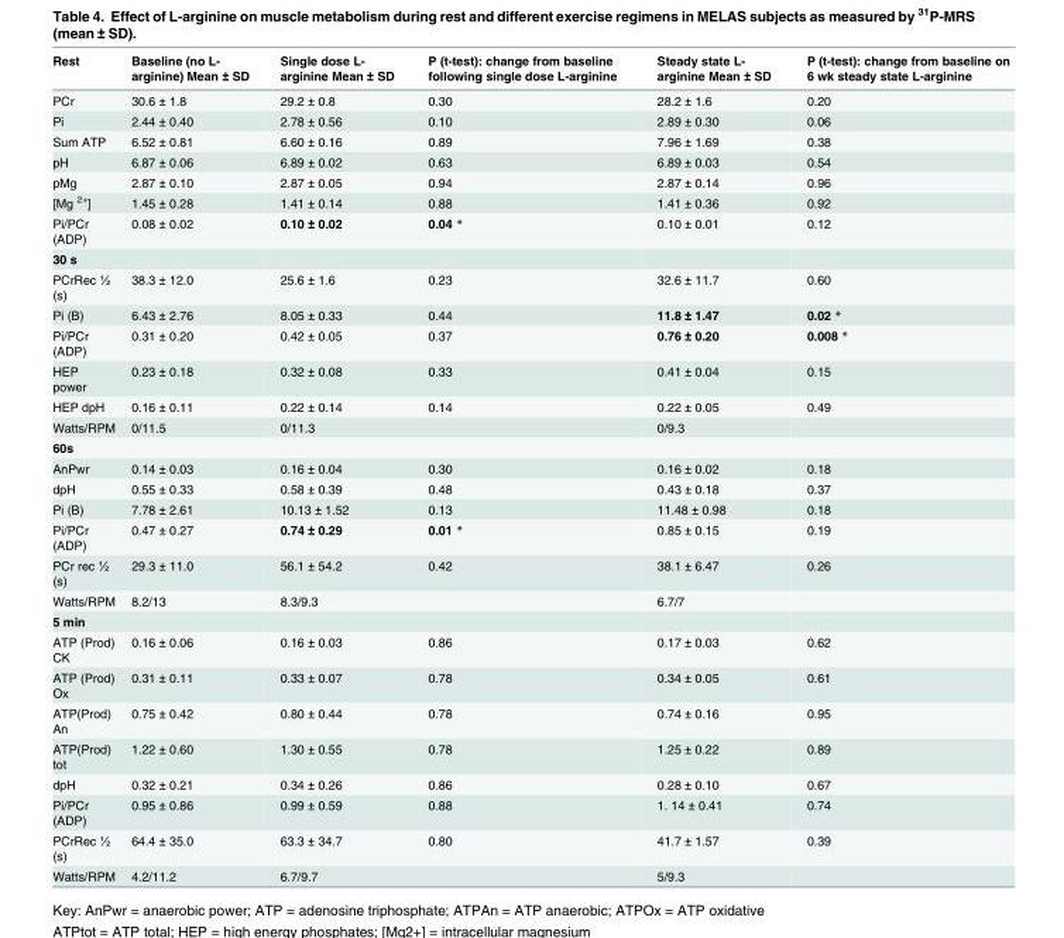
<table><thead><tr><td>Rest</td><td>Baseline (no L- arginine) Mean ± SD</td><td>Single dose L- arginine Mean ± SD</td><td>P (t-test): change from baseline following single dose L-arginine</td><td>Steady state L- arginine Mean ± SD</td><td>P (t-test): change from baseline on 6 wk steady state L-arginine</td></tr></thead><tbody><tr><td>PCr</td><td>30.6 ± 1.8</td><td>29.2 ± 0.8</td><td>0.30</td><td>28.2 ± 1.6</td><td>0.20</td></tr><tr><td>Pi</td><td>2.44 ± 0.40</td><td>2.78 ± 0.56</td><td>0.10</td><td>2.89 ± 0.30</td><td>0.06</td></tr><tr><td>Sum ATP</td><td>6.52 ± 0.81</td><td>6.60 ± 0.16</td><td>0.89</td><td>7.96 ± 1.69</td><td>0.38</td></tr><tr><td>pH</td><td>6.87 ± 0.06</td><td>6.89 ± 0.02</td><td>0.63</td><td>6.89 ± 0.03</td><td>0.54</td></tr><tr><td>pMg</td><td>2.87 ± 0.10</td><td>2.87 ± 0.05</td><td>0.94</td><td>2.87 ± 0.14</td><td>0.96</td></tr><tr><td>[Mg <sup>2+</sup>]</td><td>1.45 ± 0.28</td><td>1.41 ± 0.14</td><td>0.88</td><td>1.41 ± 0.36</td><td>0.92</td></tr><tr><td>Pi/PCr (ADP)</td><td>0.08 ± 0.02</td><td>0.10 ± 0.02</td><td>0.04 *</td><td>0.10 ± 0.01</td><td>0.12</td></tr><tr><td colspan="6">30 s</td></tr><tr><td>PCrRec ½ (s)</td><td>38.3 ± 12.0</td><td>25.6 ± 1.6</td><td>0.23</td><td>32.6 ± 11.7</td><td>0.60</td></tr><tr><td>Pi (B)</td><td>6.43 ± 2.76</td><td>8.05 ± 0.33</td><td>0.44</td><td>11.8 ± 1.47</td><td>0.02 *</td></tr><tr><td>Pi/PCr (ADP)</td><td>0.31 ± 0.20</td><td>0.42 ± 0.05</td><td>0.37</td><td>0.76 ± 0.20</td><td>0.008 *</td></tr><tr><td>HEP power</td><td>0.23 ± 0.18</td><td>0.32 ± 0.08</td><td>0.33</td><td>0.41 ± 0.04</td><td>0.15</td></tr><tr><td>HEP dpH</td><td>0.16 ± 0.11</td><td>0.22 ± 0.14</td><td>0.14</td><td>0.22 ± 0.05</td><td>0.49</td></tr><tr><td>Watts/RPM</td><td>0/11.5</td><td>0/11.3</td><td></td><td>0/9.3</td><td></td></tr><tr><td colspan="6">60s</td></tr><tr><td>AnPwr</td><td>0.14 ± 0.03</td><td>0.16 ± 0.04</td><td>0.30</td><td>0.16 ± 0.02</td><td>0.18</td></tr><tr><td>dpH</td><td>0.55 ± 0.33</td><td>0.58 ± 0.39</td><td>0.48</td><td>0.43 ± 0.18</td><td>0.37</td></tr><tr><td>Pi (B)</td><td>7.78 ± 2.61</td><td>10.13 ± 1.52</td><td>0.13</td><td>11.48 ± 0.98</td><td>0.18</td></tr><tr><td>Pi/PCr (ADP)</td><td>0.47 ± 0.27</td><td>0.74 ± 0.29</td><td>0.01 *</td><td>0.85 ± 0.15</td><td>0.19</td></tr><tr><td>PCr rec ½ (s)</td><td>29.3 ± 11.0</td><td>56.1 ± 54.2</td><td>0.42</td><td>38.1 ± 6.47</td><td>0.26</td></tr><tr><td>Watts/RPM</td><td>8.2/13</td><td>8.3/9.3</td><td></td><td>6.7/7</td><td></td></tr><tr><td colspan="6">5 min</td></tr><tr><td>ATP (Prod) CK</td><td>0.16 ± 0.06</td><td>0.16 ± 0.03</td><td>0.86</td><td>0.17 ± 0.03</td><td>0.62</td></tr><tr><td>ATP (Prod) Ox</td><td>0.31 ± 0.11</td><td>0.33 ± 0.07</td><td>0.78</td><td>0.34 ± 0.05</td><td>0.61</td></tr><tr><td>ATP(Prod) An</td><td>0.75 ± 0.42</td><td>0.80 ± 0.44</td><td>0.78</td><td>0.74 ± 0.16</td><td>0.95</td></tr><tr><td>ATP(Prod) tot</td><td>1.22 ± 0.60</td><td>1.30 ± 0.55</td><td>0.78</td><td>1.25 ± 0.22</td><td>0.89</td></tr><tr><td>dpH</td><td>0.32 ± 0.21</td><td>0.34 ± 0.26</td><td>0.86</td><td>0.28 ± 0.10</td><td>0.67</td></tr><tr><td>Pi/PCr (ADP)</td><td>0.95 ± 0.86</td><td>0.99 ± 0.59</td><td>0.88</td><td>1. 14 ± 0.41</td><td>0.74</td></tr><tr><td>PCrRec ½ (s)</td><td>64.4 ± 35.0</td><td>63.3 ± 34.7</td><td>0.80</td><td>41.7 ± 1.57</td><td>0.39</td></tr><tr><td>Watts/RPM</td><td>4.2/11.2</td><td>6.7/9.7</td><td></td><td>5/9.3</td><td></td></tr></tbody></table>